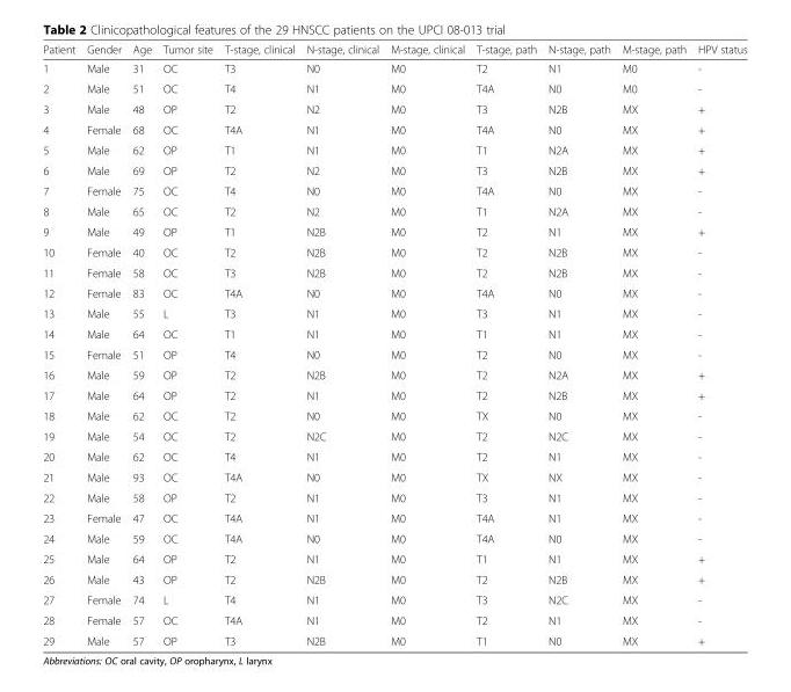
<table><thead><tr><td>Patient</td><td>Gender</td><td>Age</td><td>Tumor site</td><td>T-stage, clinical</td><td>N-stage, clinical</td><td>M-stage, clinical</td><td>T-stage, path</td><td>N-stage, path</td><td>M-stage, path</td><td>HPV status</td></tr></thead><tbody><tr><td>1</td><td>Male</td><td>31</td><td>OC</td><td>T3</td><td>N0</td><td>M0</td><td>T2</td><td>N1</td><td>M0</td><td>-</td></tr><tr><td>2</td><td>Male</td><td>51</td><td>OC</td><td>T4</td><td>N1</td><td>M0</td><td>T4A</td><td>N0</td><td>M0</td><td>-</td></tr><tr><td>3</td><td>Male</td><td>48</td><td>OP</td><td>T2</td><td>N2</td><td>M0</td><td>T3</td><td>N2B</td><td>MX</td><td>+</td></tr><tr><td>4</td><td>Female</td><td>68</td><td>OC</td><td>T4A</td><td>N1</td><td>M0</td><td>T4A</td><td>N0</td><td>MX</td><td>+</td></tr><tr><td>5</td><td>Male</td><td>62</td><td>OP</td><td>T1</td><td>N1</td><td>M0</td><td>T1</td><td>N2A</td><td>MX</td><td>+</td></tr><tr><td>6</td><td>Male</td><td>69</td><td>OP</td><td>T2</td><td>N2</td><td>M0</td><td>T3</td><td>N2B</td><td>MX</td><td>+</td></tr><tr><td>7</td><td>Female</td><td>75</td><td>OC</td><td>T4</td><td>N0</td><td>M0</td><td>T4A</td><td>N0</td><td>MX</td><td>-</td></tr><tr><td>8</td><td>Male</td><td>65</td><td>OC</td><td>T2</td><td>N2</td><td>M0</td><td>T1</td><td>N2A</td><td>MX</td><td>-</td></tr><tr><td>9</td><td>Male</td><td>49</td><td>OP</td><td>T1</td><td>N2B</td><td>M0</td><td>T2</td><td>N1</td><td>MX</td><td>+</td></tr><tr><td>10</td><td>Female</td><td>40</td><td>OC</td><td>T2</td><td>N2B</td><td>M0</td><td>T2</td><td>N2B</td><td>MX</td><td>-</td></tr><tr><td>11</td><td>Female</td><td>58</td><td>OC</td><td>T3</td><td>N2B</td><td>M0</td><td>T2</td><td>N2B</td><td>MX</td><td>-</td></tr><tr><td>12</td><td>Female</td><td>83</td><td>OC</td><td>T4A</td><td>N0</td><td>M0</td><td>T4A</td><td>N0</td><td>MX</td><td>-</td></tr><tr><td>13</td><td>Male</td><td>55</td><td>L</td><td>T3</td><td>N1</td><td>M0</td><td>T3</td><td>N1</td><td>MX</td><td>-</td></tr><tr><td>14</td><td>Male</td><td>64</td><td>OC</td><td>T1</td><td>N1</td><td>M0</td><td>T1</td><td>N1</td><td>MX</td><td>-</td></tr><tr><td>15</td><td>Female</td><td>51</td><td>OP</td><td>T4</td><td>N0</td><td>M0</td><td>T2</td><td>N0</td><td>MX</td><td>-</td></tr><tr><td>16</td><td>Male</td><td>59</td><td>OP</td><td>T2</td><td>N2B</td><td>M0</td><td>T2</td><td>N2A</td><td>MX</td><td>+</td></tr><tr><td>17</td><td>Male</td><td>64</td><td>OP</td><td>T2</td><td>N1</td><td>M0</td><td>T2</td><td>N2B</td><td>MX</td><td>+</td></tr><tr><td>18</td><td>Male</td><td>62</td><td>OC</td><td>T2</td><td>N0</td><td>M0</td><td>TX</td><td>N0</td><td>MX</td><td>-</td></tr><tr><td>19</td><td>Male</td><td>54</td><td>OC</td><td>T2</td><td>N2C</td><td>M0</td><td>T2</td><td>N2C</td><td>MX</td><td>-</td></tr><tr><td>20</td><td>Male</td><td>62</td><td>OC</td><td>T4</td><td>N1</td><td>M0</td><td>T2</td><td>N1</td><td>MX</td><td>-</td></tr><tr><td>21</td><td>Male</td><td>93</td><td>OC</td><td>T4A</td><td>N0</td><td>M0</td><td>TX</td><td>NX</td><td>MX</td><td>-</td></tr><tr><td>22</td><td>Male</td><td>58</td><td>OP</td><td>T2</td><td>N1</td><td>M0</td><td>T3</td><td>N1</td><td>MX</td><td>-</td></tr><tr><td>23</td><td>Female</td><td>47</td><td>OC</td><td>T4A</td><td>N1</td><td>M0</td><td>T4A</td><td>N1</td><td>MX</td><td>-</td></tr><tr><td>24</td><td>Male</td><td>59</td><td>OC</td><td>T4A</td><td>N0</td><td>M0</td><td>T4A</td><td>N0</td><td>MX</td><td>-</td></tr><tr><td>25</td><td>Male</td><td>64</td><td>OP</td><td>T2</td><td>N1</td><td>M0</td><td>T1</td><td>N1</td><td>MX</td><td>+</td></tr><tr><td>26</td><td>Male</td><td>43</td><td>OP</td><td>T2</td><td>N2B</td><td>M0</td><td>T2</td><td>N2B</td><td>MX</td><td>+</td></tr><tr><td>27</td><td>Female</td><td>74</td><td>L</td><td>T4</td><td>N1</td><td>M0</td><td>T3</td><td>N2C</td><td>MX</td><td>-</td></tr><tr><td>28</td><td>Female</td><td>57</td><td>OC</td><td>T4A</td><td>N1</td><td>M0</td><td>T2</td><td>N1</td><td>MX</td><td>-</td></tr><tr><td>29</td><td>Male</td><td>57</td><td>OP</td><td>T3</td><td>N2B</td><td>M0</td><td>T1</td><td>N0</td><td>MX</td><td>+</td></tr></tbody></table>